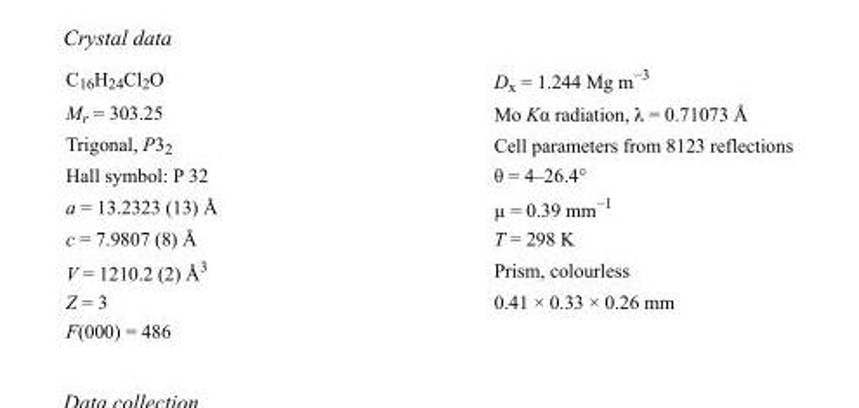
<table><tbody><tr><td>C<sub>16</sub>H<sub>24</sub>Cl<sub>2</sub>O</td><td>D<sub>x</sub> = 1.244 Mg m<sup>−3</sup></td></tr><tr><td>M<sub>r</sub> = 303.25</td><td>Mo Kα radiation, λ = 0.71073 Å</td></tr><tr><td>Trigonal, P3<sub>2</sub></td><td>Cell parameters from 8123 reflections</td></tr><tr><td>Hall symbol: P 32</td><td>θ = 4–26.4°</td></tr><tr><td>a = 13.2323 (13) Å</td><td>µ = 0.39 mm<sup>−1</sup></td></tr><tr><td>c = 7.9807 (8) Å</td><td>T = 298 K</td></tr><tr><td>V = 1210.2 (2) Å<sup>3</sup></td><td>Prism, colourless</td></tr><tr><td>Z = 3</td><td>0.41 × 0.33 × 0.26 mm</td></tr><tr><td>F(000) = 486</td><td></td></tr></tbody></table>